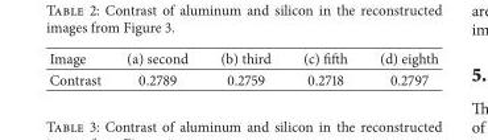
<table><thead><tr><td>Image</td><td>(a) second</td><td>(b) third</td><td>(c) fifth</td><td>(d) eighth</td></tr></thead><tbody><tr><td>Contrast</td><td>0.2789</td><td>0.2759</td><td>0.2718</td><td>0.2797</td></tr></tbody></table>